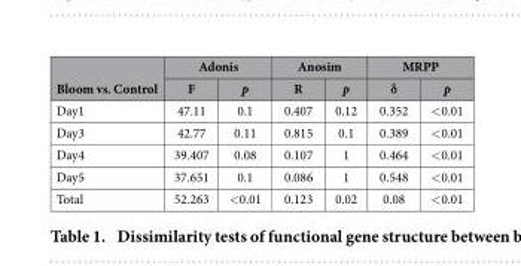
<table><thead><tr><td rowspan="2">Bloom vs. Control</td><td colspan="2">Adonis</td><td colspan="2">Anosim</td><td colspan="2">MRPP</td></tr><tr><td>F</td><td>p</td><td>R</td><td>p</td><td>δ</td><td>p</td></tr></thead><tbody><tr><td>Day1</td><td>47.11</td><td>0.1</td><td>0.407</td><td>0.12</td><td>0.352</td><td>&lt; 0.01</td></tr><tr><td>Day3</td><td>42.77</td><td>0.11</td><td>0.815</td><td>0.1</td><td>0.389</td><td>&lt; 0.01</td></tr><tr><td>Day4</td><td>39.407</td><td>0.08</td><td>0.107</td><td>1</td><td>0.464</td><td>&lt; 0.01</td></tr><tr><td>Day5</td><td>37.651</td><td>0.1</td><td>0.086</td><td>1</td><td>0.548</td><td>&lt; 0.01</td></tr><tr><td>Total</td><td>52.263</td><td>&lt; 0.01</td><td>0.123</td><td>0.02</td><td>0.08</td><td>&lt; 0.01</td></tr></tbody></table>